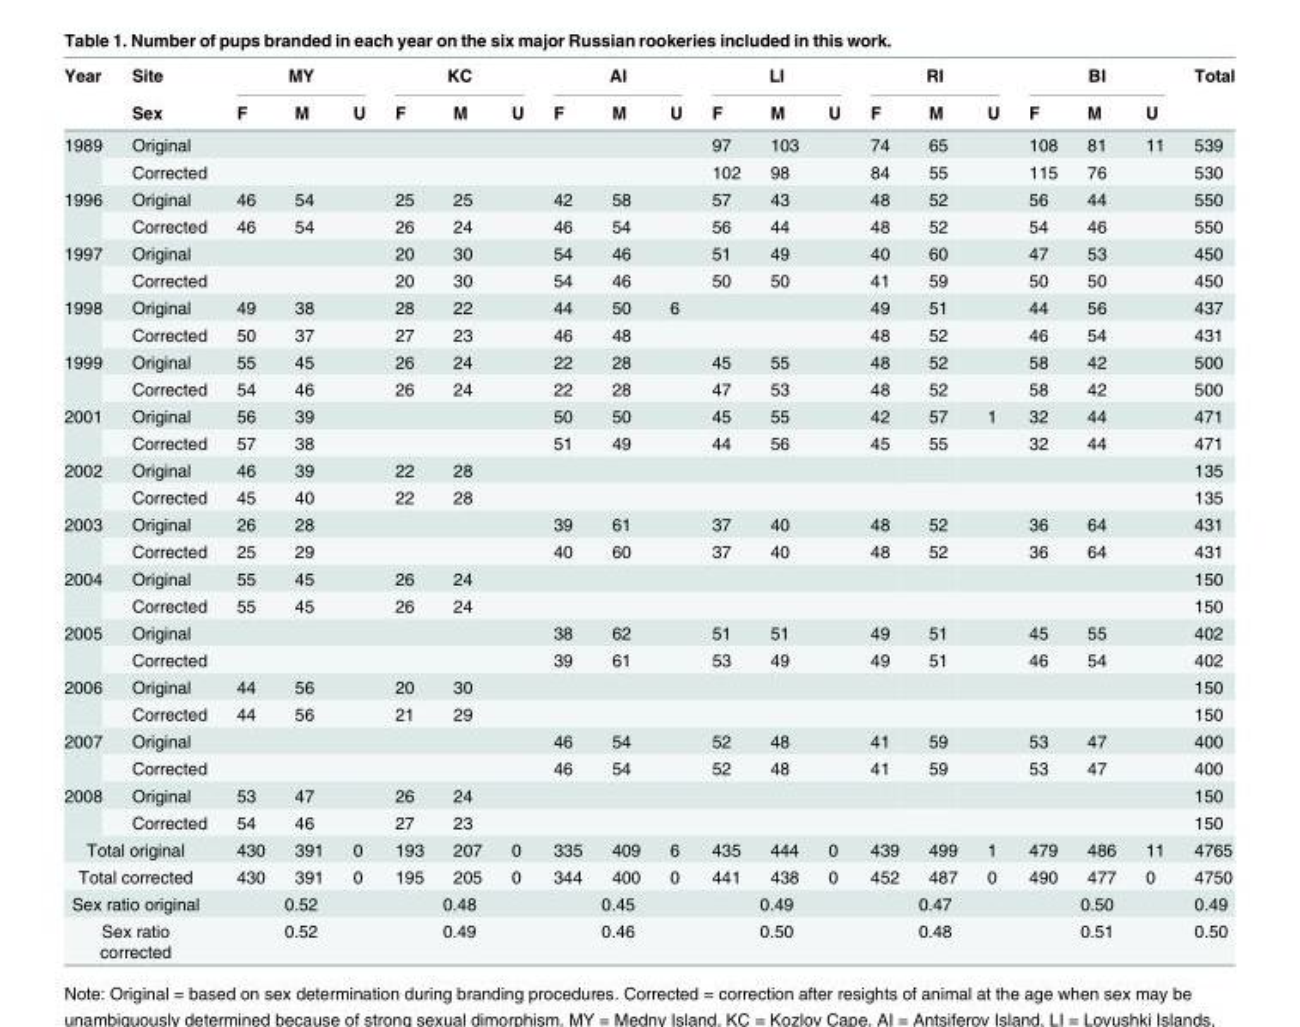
<table><thead><tr><td rowspan="2">Year</td><td rowspan="2">Site Sex</td><td colspan="3">MY</td><td colspan="3">KC</td><td colspan="3">AI</td><td colspan="3">LI</td><td colspan="3">RI</td><td colspan="3">BI</td><td rowspan="2">Total</td></tr><tr><td>F</td><td>M</td><td>U</td><td>F</td><td>M</td><td>U</td><td>F</td><td>M</td><td>U</td><td>F</td><td>M</td><td>U</td><td>F</td><td>M</td><td>U</td><td>F</td><td>M</td><td>U</td></tr></thead><tbody><tr><td rowspan="2">1989</td><td>Original</td><td></td><td></td><td></td><td></td><td></td><td></td><td></td><td></td><td></td><td>97</td><td>103</td><td></td><td>74</td><td>65</td><td></td><td>108</td><td>81</td><td>11</td><td>539</td></tr><tr><td>Corrected</td><td></td><td></td><td></td><td></td><td></td><td></td><td></td><td></td><td></td><td>102</td><td>98</td><td></td><td>84</td><td>55</td><td></td><td>115</td><td>76</td><td></td><td>530</td></tr><tr><td rowspan="2">1996</td><td>Original</td><td>46</td><td>54</td><td></td><td>25</td><td>25</td><td></td><td>42</td><td>58</td><td></td><td>57</td><td>43</td><td></td><td>48</td><td>52</td><td></td><td>56</td><td>44</td><td></td><td>550</td></tr><tr><td>Corrected</td><td>46</td><td>54</td><td></td><td>26</td><td>24</td><td></td><td>46</td><td>54</td><td></td><td>56</td><td>44</td><td></td><td>48</td><td>52</td><td></td><td>54</td><td>46</td><td></td><td>550</td></tr><tr><td rowspan="2">1997</td><td>Original</td><td></td><td></td><td></td><td>20</td><td>30</td><td></td><td>54</td><td>46</td><td></td><td>51</td><td>49</td><td></td><td>40</td><td>60</td><td></td><td>47</td><td>53</td><td></td><td>450</td></tr><tr><td>Corrected</td><td></td><td></td><td></td><td>20</td><td>30</td><td></td><td>54</td><td>46</td><td></td><td>50</td><td>50</td><td></td><td>41</td><td>59</td><td></td><td>50</td><td>50</td><td></td><td>450</td></tr><tr><td rowspan="2">1998</td><td>Original</td><td>49</td><td>38</td><td></td><td>28</td><td>22</td><td></td><td>44</td><td>50</td><td>6</td><td></td><td></td><td></td><td>49</td><td>51</td><td></td><td>44</td><td>56</td><td></td><td>437</td></tr><tr><td>Corrected</td><td>50</td><td>37</td><td></td><td>27</td><td>23</td><td></td><td>46</td><td>48</td><td></td><td></td><td></td><td></td><td>48</td><td>52</td><td></td><td>46</td><td>54</td><td></td><td>431</td></tr><tr><td rowspan="2">1999</td><td>Original</td><td>55</td><td>45</td><td></td><td>26</td><td>24</td><td></td><td>22</td><td>28</td><td></td><td>45</td><td>55</td><td></td><td>48</td><td>52</td><td></td><td>58</td><td>42</td><td></td><td>500</td></tr><tr><td>Corrected</td><td>54</td><td>46</td><td></td><td>26</td><td>24</td><td></td><td>22</td><td>28</td><td></td><td>47</td><td>53</td><td></td><td>48</td><td>52</td><td></td><td>58</td><td>42</td><td></td><td>500</td></tr><tr><td rowspan="2">2001</td><td>Original</td><td>56</td><td>39</td><td></td><td></td><td></td><td></td><td>50</td><td>50</td><td></td><td>45</td><td>55</td><td></td><td>42</td><td>57</td><td>1</td><td>32</td><td>44</td><td></td><td>471</td></tr><tr><td>Corrected</td><td>57</td><td>38</td><td></td><td></td><td></td><td></td><td>51</td><td>49</td><td></td><td>44</td><td>56</td><td></td><td>45</td><td>55</td><td></td><td>32</td><td>44</td><td></td><td>471</td></tr><tr><td rowspan="2">2002</td><td>Original</td><td>46</td><td>39</td><td></td><td>22</td><td>28</td><td></td><td></td><td></td><td></td><td></td><td></td><td></td><td></td><td></td><td></td><td></td><td></td><td></td><td>135</td></tr><tr><td>Corrected</td><td>45</td><td>40</td><td></td><td>22</td><td>28</td><td></td><td></td><td></td><td></td><td></td><td></td><td></td><td></td><td></td><td></td><td></td><td></td><td></td><td>135</td></tr><tr><td rowspan="2">2003</td><td>Original</td><td>26</td><td>28</td><td></td><td></td><td></td><td></td><td>39</td><td>61</td><td></td><td>37</td><td>40</td><td></td><td>48</td><td>52</td><td></td><td>36</td><td>64</td><td></td><td>431</td></tr><tr><td>Corrected</td><td>25</td><td>29</td><td></td><td></td><td></td><td></td><td>40</td><td>60</td><td></td><td>37</td><td>40</td><td></td><td>48</td><td>52</td><td></td><td>36</td><td>64</td><td></td><td>431</td></tr><tr><td rowspan="2">2004</td><td>Original</td><td>55</td><td>45</td><td></td><td>26</td><td>24</td><td></td><td></td><td></td><td></td><td></td><td></td><td></td><td></td><td></td><td></td><td></td><td></td><td></td><td>150</td></tr><tr><td>Corrected</td><td>55</td><td>45</td><td></td><td>26</td><td>24</td><td></td><td></td><td></td><td></td><td></td><td></td><td></td><td></td><td></td><td></td><td></td><td></td><td></td><td>150</td></tr><tr><td rowspan="2">2005</td><td>Original</td><td></td><td></td><td></td><td></td><td></td><td></td><td>38</td><td>62</td><td></td><td>51</td><td>51</td><td></td><td>49</td><td>51</td><td></td><td>45</td><td>55</td><td></td><td>402</td></tr><tr><td>Corrected</td><td></td><td></td><td></td><td></td><td></td><td></td><td>39</td><td>61</td><td></td><td>53</td><td>49</td><td></td><td>49</td><td>51</td><td></td><td>46</td><td>54</td><td></td><td>402</td></tr><tr><td rowspan="2">2006</td><td>Original</td><td>44</td><td>56</td><td></td><td>20</td><td>30</td><td></td><td></td><td></td><td></td><td></td><td></td><td></td><td></td><td></td><td></td><td></td><td></td><td></td><td>150</td></tr><tr><td>Corrected</td><td>44</td><td>56</td><td></td><td>21</td><td>29</td><td></td><td></td><td></td><td></td><td></td><td></td><td></td><td></td><td></td><td></td><td></td><td></td><td></td><td>150</td></tr><tr><td rowspan="2">2007</td><td>Original</td><td></td><td></td><td></td><td></td><td></td><td></td><td>46</td><td>54</td><td></td><td>52</td><td>48</td><td></td><td>41</td><td>59</td><td></td><td>53</td><td>47</td><td></td><td>400</td></tr><tr><td>Corrected</td><td></td><td></td><td></td><td></td><td></td><td></td><td>46</td><td>54</td><td></td><td>52</td><td>48</td><td></td><td>41</td><td>59</td><td></td><td>53</td><td>47</td><td></td><td>400</td></tr><tr><td rowspan="2">2008</td><td>Original</td><td>53</td><td>47</td><td></td><td>26</td><td>24</td><td></td><td></td><td></td><td></td><td></td><td></td><td></td><td></td><td></td><td></td><td></td><td></td><td></td><td>150</td></tr><tr><td>Corrected</td><td>54</td><td>46</td><td></td><td>27</td><td>23</td><td></td><td></td><td></td><td></td><td></td><td></td><td></td><td></td><td></td><td></td><td></td><td></td><td></td><td>150</td></tr><tr><td colspan="2">Total original</td><td>430</td><td>391</td><td>0</td><td>193</td><td>207</td><td>0</td><td>335</td><td>409</td><td>6</td><td>435</td><td>444</td><td>0</td><td>439</td><td>499</td><td>1</td><td>479</td><td>486</td><td>11</td><td>4765</td></tr><tr><td colspan="2">Total corrected</td><td>430</td><td>391</td><td>0</td><td>195</td><td>205</td><td>0</td><td>344</td><td>400</td><td>0</td><td>441</td><td>438</td><td>0</td><td>452</td><td>487</td><td>0</td><td>490</td><td>477</td><td>0</td><td>4750</td></tr><tr><td colspan="2">Sex ratio original</td><td colspan="3">0.52</td><td colspan="3">0.48</td><td colspan="3">0.45</td><td colspan="3">0.49</td><td colspan="3">0.47</td><td colspan="3">0.50</td><td>0.49</td></tr><tr><td colspan="2">Sex ratio corrected</td><td colspan="3">0.52</td><td colspan="3">0.49</td><td colspan="3">0.46</td><td colspan="3">0.50</td><td colspan="3">0.48</td><td colspan="3">0.51</td><td>0.50</td></tr></tbody></table>